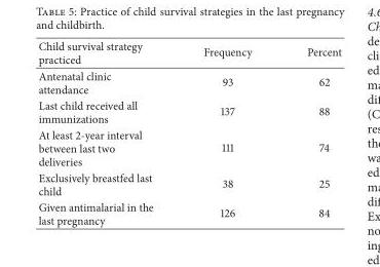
<table><thead><tr><td>Child survival strategy practiced</td><td>Frequency</td><td>Percent</td></tr></thead><tbody><tr><td>Antenatal clinic attendance</td><td>93</td><td>62</td></tr><tr><td>Last child received all immunizations</td><td>137</td><td>88</td></tr><tr><td>At least 2-year interval between last two deliveries</td><td>111</td><td>74</td></tr><tr><td>Exclusively breastfed last child</td><td>38</td><td>25</td></tr><tr><td>Given antimalarial in the last pregnancy</td><td>126</td><td>84</td></tr></tbody></table>